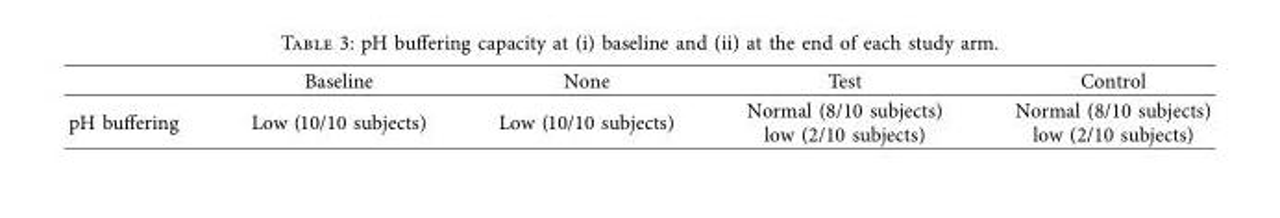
<table><thead><tr><td></td><td>Baseline</td><td>None</td><td>Test</td><td>Control</td></tr></thead><tbody><tr><td>pH buffering</td><td>Low (10/10 subjects)</td><td>Low (10/10 subjects)</td><td>Normal (8/10 subjects) low (2/10 subjects)</td><td>Normal (8/10 subjects) low (2/10 subjects)</td></tr></tbody></table>